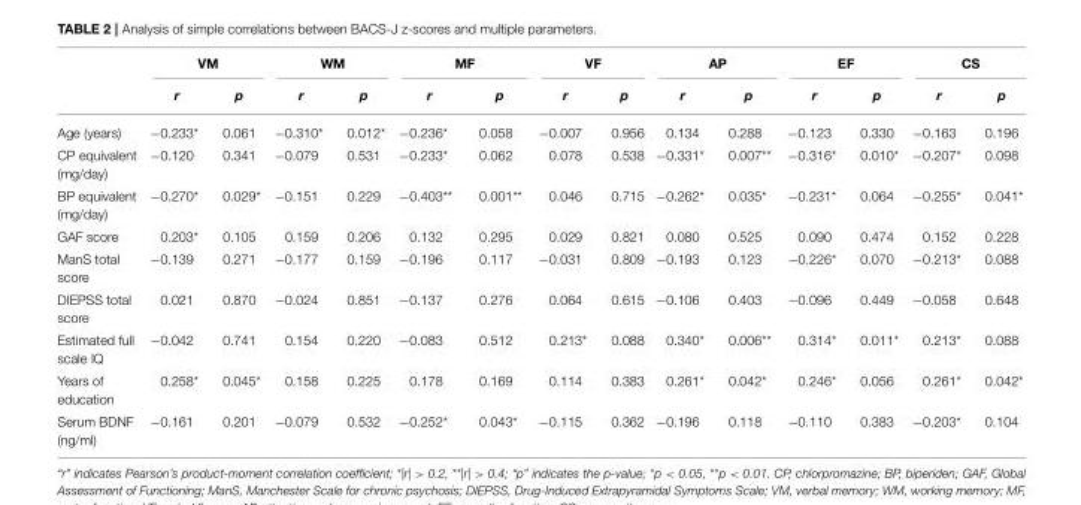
<table><thead><tr><td rowspan="2"></td><td colspan="2">VM</td><td colspan="2">WM</td><td colspan="2">MF</td><td colspan="2">VF</td><td colspan="2">AP</td><td colspan="2">EF</td><td colspan="2">CS</td></tr><tr><td>r</td><td>p</td><td>r</td><td>p</td><td>r</td><td>p</td><td>r</td><td>p</td><td>r</td><td>p</td><td>r</td><td>p</td><td>r</td><td>p</td></tr></thead><tbody><tr><td>Age (years)</td><td>−0.233*</td><td>0.061</td><td>−0.310*</td><td>0.012*</td><td>−0.236*</td><td>0.058</td><td>−0.007</td><td>0.956</td><td>0.134</td><td>0.288</td><td>−0.123</td><td>0.330</td><td>−0.163</td><td>0.196</td></tr><tr><td>CP equivalent (mg/day)</td><td>−0.120</td><td>0.341</td><td>−0.079</td><td>0.531</td><td>−0.233*</td><td>0.062</td><td>0.078</td><td>0.538</td><td>−0.331*</td><td>0.007**</td><td>−0.316*</td><td>0.010*</td><td>−0.207*</td><td>0.098</td></tr><tr><td>BP equivalent (mg/day)</td><td>−0.270*</td><td>0.029*</td><td>−0.151</td><td>0.229</td><td>−0.403**</td><td>0.001**</td><td>0.046</td><td>0.715</td><td>−0.262*</td><td>0.035*</td><td>−0.231*</td><td>0.064</td><td>−0.255*</td><td>0.041*</td></tr><tr><td>GAF score</td><td>0.203*</td><td>0.105</td><td>0.159</td><td>0.206</td><td>0.132</td><td>0.295</td><td>0.029</td><td>0.821</td><td>0.080</td><td>0.525</td><td>0.090</td><td>0.474</td><td>0.152</td><td>0.228</td></tr><tr><td>ManS total score</td><td>−0.139</td><td>0.271</td><td>−0.177</td><td>0.159</td><td>−0.196</td><td>0.117</td><td>−0.031</td><td>0.809</td><td>−0.193</td><td>0.123</td><td>−0.226*</td><td>0.070</td><td>−0.213*</td><td>0.088</td></tr><tr><td>DIEPSS total score</td><td>0.021</td><td>0.870</td><td>−0.024</td><td>0.851</td><td>−0.137</td><td>0.276</td><td>0.064</td><td>0.615</td><td>−0.106</td><td>0.403</td><td>−0.096</td><td>0.449</td><td>−0.058</td><td>0.648</td></tr><tr><td>Estimated full scale IQ</td><td>−0.042</td><td>0.741</td><td>0.154</td><td>0.220</td><td>−0.083</td><td>0.512</td><td>0.213*</td><td>0.088</td><td>0.340*</td><td>0.006**</td><td>0.314*</td><td>0.011*</td><td>0.213*</td><td>0.088</td></tr><tr><td>Years of education</td><td>0.258*</td><td>0.045*</td><td>0.158</td><td>0.225</td><td>0.178</td><td>0.169</td><td>0.114</td><td>0.383</td><td>0.261*</td><td>0.042*</td><td>0.246*</td><td>0.056</td><td>0.261*</td><td>0.042*</td></tr><tr><td>Serum BDNF (ng/ml)</td><td>−0.161</td><td>0.201</td><td>−0.079</td><td>0.532</td><td>−0.252*</td><td>0.043*</td><td>−0.115</td><td>0.362</td><td>−0.196</td><td>0.118</td><td>−0.110</td><td>0.383</td><td>−0.203*</td><td>0.104</td></tr></tbody></table>